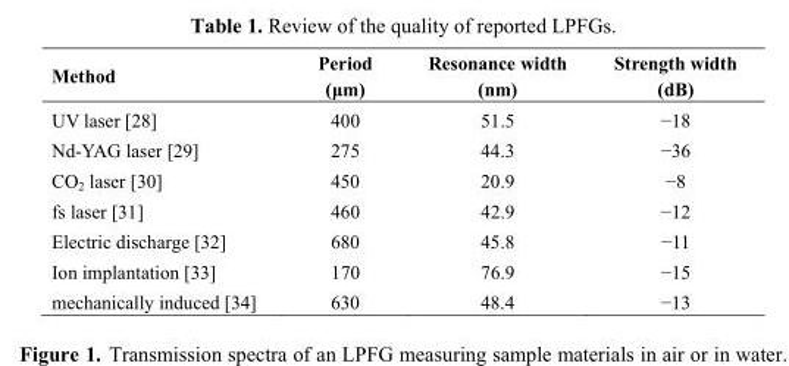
<table><thead><tr><td>Method</td><td>Period (μm)</td><td>Resonance width (nm)</td><td>Strength width (dB)</td></tr></thead><tbody><tr><td>UV laser [28]</td><td>400</td><td>51.5</td><td>−18</td></tr><tr><td>Nd-YAG laser [29]</td><td>275</td><td>44.3</td><td>−36</td></tr><tr><td>CO<sub>2</sub> laser [30]</td><td>450</td><td>20.9</td><td>−8</td></tr><tr><td>fs laser [31]</td><td>460</td><td>42.9</td><td>−12</td></tr><tr><td>Electric discharge [32]</td><td>680</td><td>45.8</td><td>−11</td></tr><tr><td>Ion implantation [33]</td><td>170</td><td>76.9</td><td>−15</td></tr><tr><td>mechanically induced [34]</td><td>630</td><td>48.4</td><td>−13</td></tr></tbody></table>